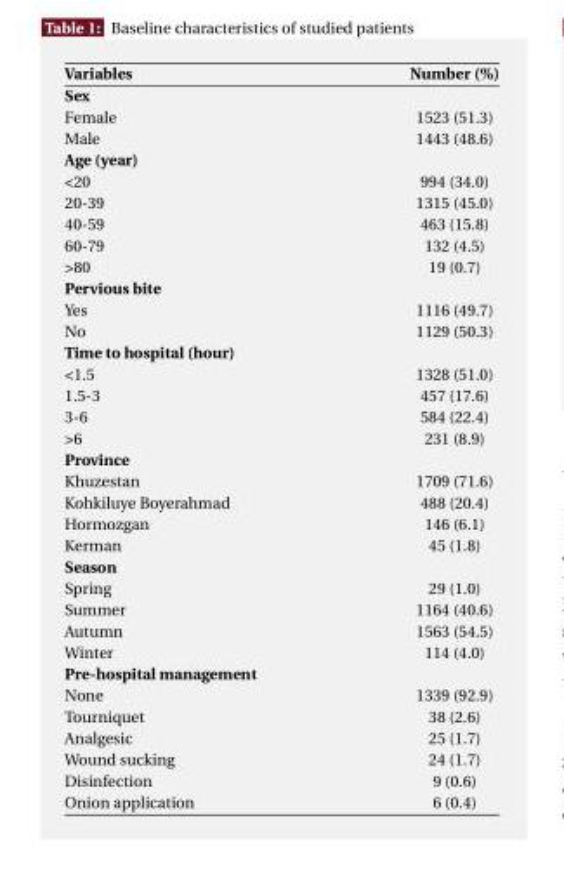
<table><thead><tr><td>Variables</td><td>Number (%)</td></tr></thead><tbody><tr><td colspan="2">Sex</td></tr><tr><td>Female</td><td>1523 (51.3)</td></tr><tr><td>Male</td><td>1443 (48.6)</td></tr><tr><td colspan="2">Age (year)</td></tr><tr><td>&lt;20</td><td>994 (34.0)</td></tr><tr><td>20-39</td><td>1315 (45.0)</td></tr><tr><td>40-59</td><td>463 (15.8)</td></tr><tr><td>60-79</td><td>132 (4.5)</td></tr><tr><td>&gt;80</td><td>19 (0.7)</td></tr><tr><td colspan="2">Pervious bite</td></tr><tr><td>Yes</td><td>1116 (49.7)</td></tr><tr><td>No</td><td>1129 (50.3)</td></tr><tr><td colspan="2">Time to hospital (hour)</td></tr><tr><td>&lt;1.5</td><td>1328 (51.0)</td></tr><tr><td>1.5-3</td><td>457 (17.6)</td></tr><tr><td>3-6</td><td>584 (22.4)</td></tr><tr><td>&gt;6</td><td>231 (8.9)</td></tr><tr><td colspan="2">Province</td></tr><tr><td>Khuzestan</td><td>1709 (71.6)</td></tr><tr><td>Kohkiluye Boyerahmad</td><td>488 (20.4)</td></tr><tr><td>Hormozgan</td><td>146 (6.1)</td></tr><tr><td>Kerman</td><td>45 (1.8)</td></tr><tr><td colspan="2">Season</td></tr><tr><td>Spring</td><td>29 (1.0)</td></tr><tr><td>Summer</td><td>1164 (40.6)</td></tr><tr><td>Autumn</td><td>1563 (54.5)</td></tr><tr><td>Winter</td><td>114 (4.0)</td></tr><tr><td colspan="2">Pre-hospital management</td></tr><tr><td>None</td><td>1339 (92.9)</td></tr><tr><td>Tourniquet</td><td>38 (2.6)</td></tr><tr><td>Analgesic</td><td>25 (1.7)</td></tr><tr><td>Wound sucking</td><td>24 (1.7)</td></tr><tr><td>Disinfection</td><td>9 (0.6)</td></tr><tr><td>Onion application</td><td>6 (0.4)</td></tr></tbody></table>